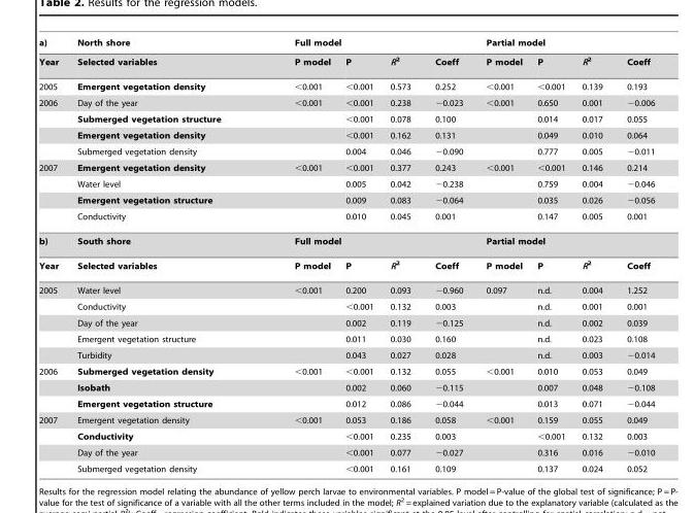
<table><thead><tr><td rowspan="2">a) Year</td><td rowspan="2">North shore Selected variables</td><td colspan="4">Full model</td><td colspan="4">Partial model</td></tr><tr><td>P model</td><td>P</td><td>R<sup>2</sup></td><td>Coeff</td><td>P model</td><td>P</td><td>R<sup>2</sup></td><td>Coeff</td></tr></thead><tbody><tr><td>2005</td><td>Emergent vegetation density</td><td>&lt;0.001</td><td>&lt;0.001</td><td>0.573</td><td>0.252</td><td>&lt;0.001</td><td>&lt;0.001</td><td>0.139</td><td>0.193</td></tr><tr><td rowspan="4">2006</td><td>Day of the year</td><td>&lt;0.001</td><td>&lt;0.001</td><td>0.238</td><td>−0.023</td><td>&lt;0.001</td><td>0.650</td><td>0.001</td><td>−0.006</td></tr><tr><td>Submerged vegetation structure</td><td></td><td>&lt;0.001</td><td>0.078</td><td>0.100</td><td></td><td>0.014</td><td>0.017</td><td>0.055</td></tr><tr><td>Emergent vegetation density</td><td></td><td>&lt;0.001</td><td>0.162</td><td>0.131</td><td></td><td>0.049</td><td>0.010</td><td>0.064</td></tr><tr><td>Submerged vegetation density</td><td></td><td>0.004</td><td>0.046</td><td>−0.090</td><td></td><td>0.777</td><td>0.005</td><td>−0.011</td></tr><tr><td rowspan="4">2007</td><td>Emergent vegetation density</td><td>&lt;0.001</td><td>&lt;0.001</td><td>0.377</td><td>0.243</td><td>&lt;0.001</td><td>&lt;0.001</td><td>0.146</td><td>0.214</td></tr><tr><td>Water level</td><td></td><td>0.005</td><td>0.042</td><td>−0.238</td><td></td><td>0.759</td><td>0.004</td><td>−0.046</td></tr><tr><td>Emergent vegetation structure</td><td></td><td>0.009</td><td>0.083</td><td>−0.064</td><td></td><td>0.035</td><td>0.026</td><td>−0.056</td></tr><tr><td>Conductivity</td><td></td><td>0.010</td><td>0.045</td><td>0.001</td><td></td><td>0.147</td><td>0.005</td><td>0.001</td></tr><tr><td>b)</td><td>South shore</td><td colspan="4">Full model</td><td colspan="4">Partial model</td></tr><tr><td>Year</td><td>Selected variables</td><td>P model</td><td>P</td><td>R<sup>2</sup></td><td>Coeff</td><td>P model</td><td>P</td><td>R<sup>2</sup></td><td>Coeff</td></tr><tr><td rowspan="5">2005</td><td>Water level</td><td>&lt;0.001</td><td>0.200</td><td>0.093</td><td>−0.960</td><td>0.097</td><td>n.d.</td><td>0.004</td><td>1.252</td></tr><tr><td>Conductivity</td><td></td><td>&lt;0.001</td><td>0.132</td><td>0.003</td><td></td><td>n.d.</td><td>0.001</td><td>0.001</td></tr><tr><td>Day of the year</td><td></td><td>0.002</td><td>0.119</td><td>−0.125</td><td></td><td>n.d.</td><td>0.002</td><td>0.039</td></tr><tr><td>Emergent vegetation structure</td><td></td><td>0.011</td><td>0.030</td><td>0.160</td><td></td><td>n.d.</td><td>0.023</td><td>0.108</td></tr><tr><td>Turbidity</td><td></td><td>0.043</td><td>0.027</td><td>0.028</td><td></td><td>n.d.</td><td>0.003</td><td>−0.014</td></tr><tr><td rowspan="3">2006</td><td>Submerged vegetation density</td><td>&lt;0.001</td><td>&lt;0.001</td><td>0.132</td><td>0.055</td><td>&lt;0.001</td><td>0.010</td><td>0.053</td><td>0.049</td></tr><tr><td>Isobath</td><td></td><td>0.002</td><td>0.060</td><td>−0.115</td><td></td><td>0.007</td><td>0.048</td><td>−0.108</td></tr><tr><td>Emergent vegetation structure</td><td></td><td>0.012</td><td>0.086</td><td>−0.044</td><td></td><td>0.013</td><td>0.071</td><td>−0.044</td></tr><tr><td rowspan="4">2007</td><td>Emergent vegetation density</td><td>&lt;0.001</td><td>0.053</td><td>0.186</td><td>0.058</td><td>&lt;0.001</td><td>0.159</td><td>0.055</td><td>0.049</td></tr><tr><td>Conductivity</td><td></td><td>&lt;0.001</td><td>0.235</td><td>0.003</td><td></td><td>&lt;0.001</td><td>0.132</td><td>0.003</td></tr><tr><td>Day of the year</td><td></td><td>&lt;0.001</td><td>0.077</td><td>−0.027</td><td></td><td>0.316</td><td>0.016</td><td>−0.010</td></tr><tr><td>Submerged vegetation density</td><td></td><td>&lt;0.001</td><td>0.161</td><td>0.109</td><td></td><td>0.137</td><td>0.024</td><td>0.052</td></tr></tbody></table>